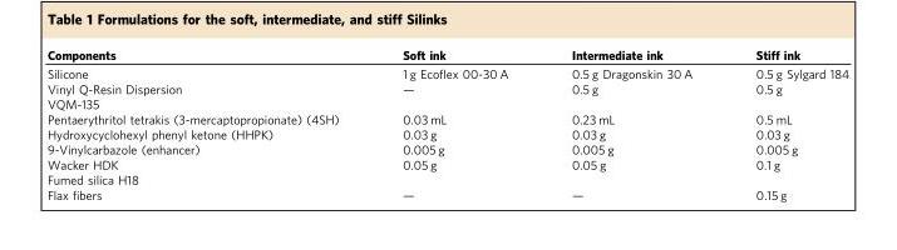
<table><thead><tr><td>Components</td><td>Soft ink</td><td>Intermediate ink</td><td>Stiff ink</td></tr></thead><tbody><tr><td>Silicone</td><td>1 g Ecoflex 00-30 A</td><td>0.5 g Dragonskin 30 A</td><td>0.5 g Sylgard 184</td></tr><tr><td>Vinyl Q-Resin Dispersion VQM-135</td><td>—</td><td>0.5 g</td><td>0.5 g</td></tr><tr><td>Pentaerythritol tetrakis (3-mercaptopropionate) (4SH)</td><td>0.03 mL</td><td>0.23 mL</td><td>0.5 mL</td></tr><tr><td>Hydroxycyclohexyl phenyl ketone (HHPK)</td><td>0.03 g</td><td>0.03 g</td><td>0.03 g</td></tr><tr><td>9-Vinylcarbazole (enhancer)</td><td>0.005 g</td><td>0.005 g</td><td>0.005 g</td></tr><tr><td>Wacker HDK Fumed silica H18</td><td>0.05 g</td><td>0.05 g</td><td>0.1 g</td></tr><tr><td>Flax fibers</td><td>—</td><td>—</td><td>0.15 g</td></tr></tbody></table>